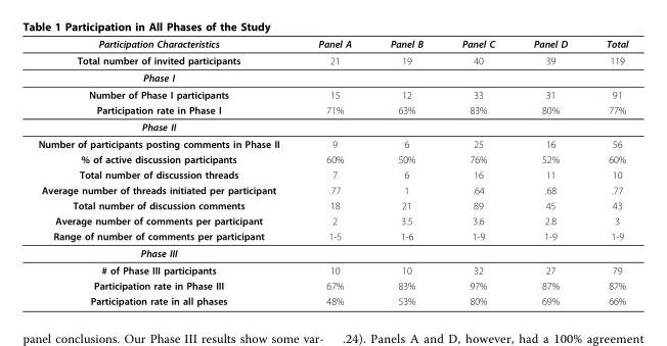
<table><thead><tr><td>Participation Characteristics</td><td>Panel A</td><td>Panel B</td><td>Panel C</td><td>Panel D</td><td>Total</td></tr></thead><tbody><tr><td>Total number of invited participants</td><td>21</td><td>19</td><td>40</td><td>39</td><td>119</td></tr><tr><td colspan="6">Phase I</td></tr><tr><td>Number of Phase I participants</td><td>15</td><td>12</td><td>33</td><td>31</td><td>91</td></tr><tr><td>Participation rate in Phase I</td><td>71%</td><td>63%</td><td>83%</td><td>80%</td><td>77%</td></tr><tr><td colspan="6">Phase II</td></tr><tr><td>Number of participants posting comments in Phase II</td><td>9</td><td>6</td><td>25</td><td>16</td><td>56</td></tr><tr><td>% of active discussion participants</td><td>60%</td><td>50%</td><td>76%</td><td>52%</td><td>60%</td></tr><tr><td>Total number of discussion threads</td><td>7</td><td>6</td><td>16</td><td>11</td><td>10</td></tr><tr><td>Average number of threads initiated per participant</td><td>.77</td><td>1</td><td>.64</td><td>.68</td><td>.77</td></tr><tr><td>Total number of discussion comments</td><td>18</td><td>21</td><td>89</td><td>45</td><td>43</td></tr><tr><td>Average number of comments per participant</td><td>2</td><td>3.5</td><td>3.6</td><td>2.8</td><td>3</td></tr><tr><td>Range of number of comments per participant</td><td>1-5</td><td>1-6</td><td>1-9</td><td>1-9</td><td>1-9</td></tr><tr><td colspan="6">Phase III</td></tr><tr><td># of Phase III participants</td><td>10</td><td>10</td><td>32</td><td>27</td><td>79</td></tr><tr><td>Participation rate in Phase III</td><td>67%</td><td>83%</td><td>97%</td><td>87%</td><td>87%</td></tr><tr><td>Participation rate in all phases</td><td>48%</td><td>53%</td><td>80%</td><td>69%</td><td>66%</td></tr></tbody></table>